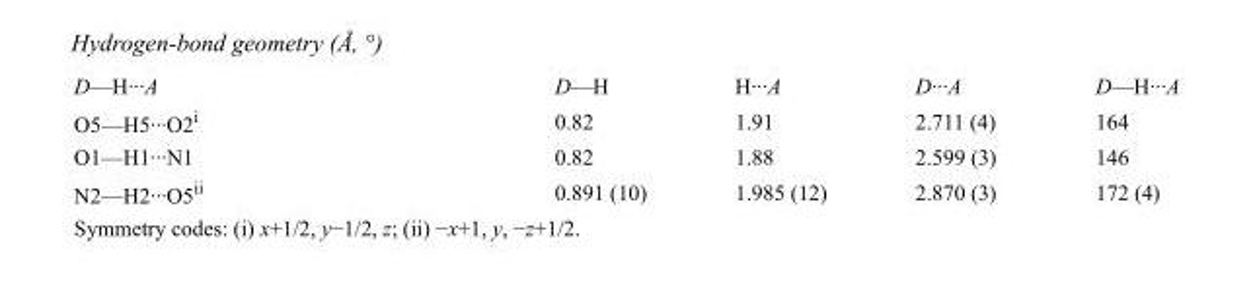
<table><tbody><tr><td>D—H···A</td><td>D—H</td><td>H···A</td><td>D···A</td><td>D—H···A</td></tr><tr><td>O5—H5···O2<sup>i</sup></td><td>0.82</td><td>1.91</td><td>2.711 (4)</td><td>164</td></tr><tr><td>O1—H1···N1</td><td>0.82</td><td>1.88</td><td>2.599 (3)</td><td>146</td></tr><tr><td>N2—H2···O5<sup>ii</sup></td><td>0.891 (10)</td><td>1.985 (12)</td><td>2.870 (3)</td><td>172 (4)</td></tr></tbody></table>